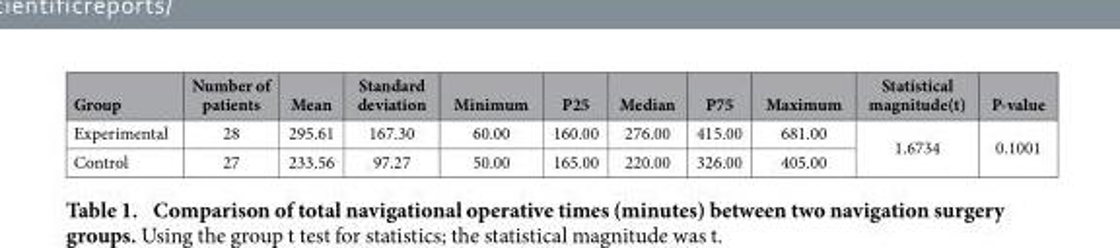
<table><thead><tr><td>Group</td><td>Number of patients</td><td>Mean</td><td>Standard deviation</td><td>Minimum</td><td>P25</td><td>Median</td><td>P75</td><td>Maximum</td><td>Statistical magnitude(t)</td><td>P-value</td></tr></thead><tbody><tr><td>Experimental</td><td>28</td><td>295.61</td><td>167.30</td><td>60.00</td><td>160.00</td><td>276.00</td><td>415.00</td><td>681.00</td><td rowspan="2">1.6734</td><td rowspan="2">0.1001</td></tr><tr><td>Control</td><td>27</td><td>233.56</td><td>97.27</td><td>50.00</td><td>165.00</td><td>220.00</td><td>326.00</td><td>405.00</td></tr></tbody></table>